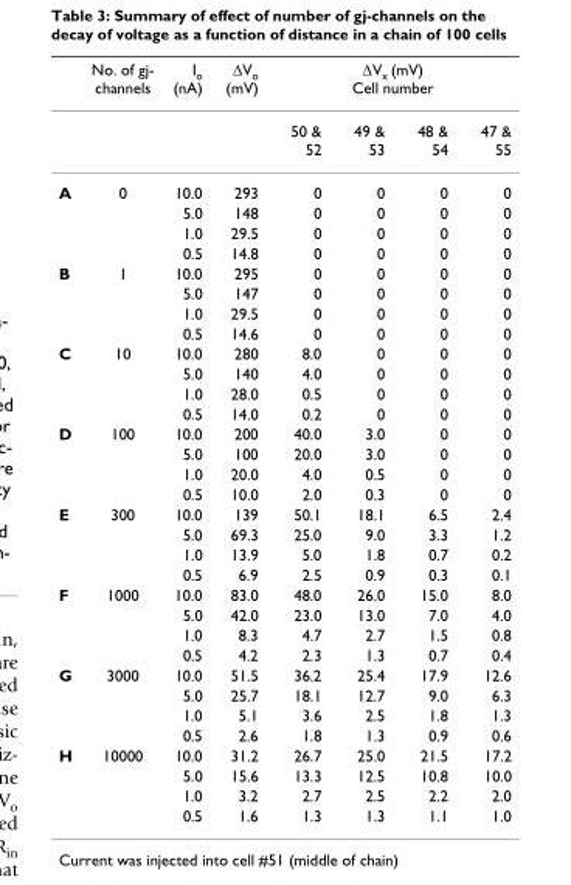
<table><thead><tr><td rowspan="2"></td><td rowspan="2">No. of gj- channels</td><td rowspan="2">Io (nA)</td><td rowspan="2">∆Vo (mV)</td><td colspan="4">∆Vx (mV) Cell number</td></tr><tr><td>50 &amp; 52</td><td>49 &amp; 53</td><td>48 &amp; 54</td><td>47 &amp; 55</td></tr></thead><tbody><tr><td rowspan="4">A</td><td>0</td><td>10.0</td><td>293</td><td>0</td><td>0</td><td>0</td><td>0</td></tr><tr><td></td><td>5.0</td><td>148</td><td>0</td><td>0</td><td>0</td><td>0</td></tr><tr><td></td><td>1.0</td><td>29.5</td><td>0</td><td>0</td><td>0</td><td>0</td></tr><tr><td></td><td>0.5</td><td>14.8</td><td>0</td><td>0</td><td>0</td><td>0</td></tr><tr><td rowspan="4">B</td><td>1</td><td>10.0</td><td>295</td><td>0</td><td>0</td><td>0</td><td>0</td></tr><tr><td></td><td>5.0</td><td>147</td><td>0</td><td>0</td><td>0</td><td>0</td></tr><tr><td></td><td>1.0</td><td>29.5</td><td>0</td><td>0</td><td>0</td><td>0</td></tr><tr><td></td><td>0.5</td><td>14.6</td><td>0</td><td>0</td><td>0</td><td>0</td></tr><tr><td rowspan="4">C</td><td>10</td><td>10.0</td><td>280</td><td>8.0</td><td>0</td><td>0</td><td>0</td></tr><tr><td></td><td>5.0</td><td>140</td><td>4.0</td><td>0</td><td>0</td><td>0</td></tr><tr><td></td><td>1.0</td><td>28.0</td><td>0.5</td><td>0</td><td>0</td><td>0</td></tr><tr><td></td><td>0.5</td><td>14.0</td><td>0.2</td><td>0</td><td>0</td><td>0</td></tr><tr><td rowspan="4">D</td><td>100</td><td>10.0</td><td>200</td><td>40.0</td><td>3.0</td><td>0</td><td>0</td></tr><tr><td></td><td>5.0</td><td>100</td><td>20.0</td><td>3.0</td><td>0</td><td>0</td></tr><tr><td></td><td>1.0</td><td>20.0</td><td>4.0</td><td>0.5</td><td>0</td><td>0</td></tr><tr><td></td><td>0.5</td><td>10.0</td><td>2.0</td><td>0.3</td><td>0</td><td>0</td></tr><tr><td rowspan="4">E</td><td>300</td><td>10.0</td><td>139</td><td>50.1</td><td>18.1</td><td>6.5</td><td>2.4</td></tr><tr><td></td><td>5.0</td><td>69.3</td><td>25.0</td><td>9.0</td><td>3.3</td><td>1.2</td></tr><tr><td></td><td>1.0</td><td>13.9</td><td>5.0</td><td>1.8</td><td>0.7</td><td>0.2</td></tr><tr><td></td><td>0.5</td><td>6.9</td><td>2.5</td><td>0.9</td><td>0.3</td><td>0.1</td></tr><tr><td rowspan="4">F</td><td>1000</td><td>10.0</td><td>83.0</td><td>48.0</td><td>26.0</td><td>15.0</td><td>8.0</td></tr><tr><td></td><td>5.0</td><td>42.0</td><td>23.0</td><td>13.0</td><td>7.0</td><td>4.0</td></tr><tr><td></td><td>1.0</td><td>8.3</td><td>4.7</td><td>2.7</td><td>1.5</td><td>0.8</td></tr><tr><td></td><td>0.5</td><td>4.2</td><td>2.3</td><td>1.3</td><td>0.7</td><td>0.4</td></tr><tr><td rowspan="4">G</td><td>3000</td><td>10.0</td><td>51.5</td><td>36.2</td><td>25.4</td><td>17.9</td><td>12.6</td></tr><tr><td></td><td>5.0</td><td>25.7</td><td>18.1</td><td>12.7</td><td>9.0</td><td>6.3</td></tr><tr><td></td><td>1.0</td><td>5.1</td><td>3.6</td><td>2.5</td><td>1.8</td><td>1.3</td></tr><tr><td></td><td>0.5</td><td>2.6</td><td>1.8</td><td>1.3</td><td>0.9</td><td>0.6</td></tr><tr><td rowspan="4">H</td><td>10000</td><td>10.0</td><td>31.2</td><td>26.7</td><td>25.0</td><td>21.5</td><td>17.2</td></tr><tr><td></td><td>5.0</td><td>15.6</td><td>13.3</td><td>12.5</td><td>10.8</td><td>10.0</td></tr><tr><td></td><td>1.0</td><td>3.2</td><td>2.7</td><td>2.5</td><td>2.2</td><td>2.0</td></tr><tr><td></td><td>0.5</td><td>1.6</td><td>1.3</td><td>1.3</td><td>1.1</td><td>1.0</td></tr></tbody></table>